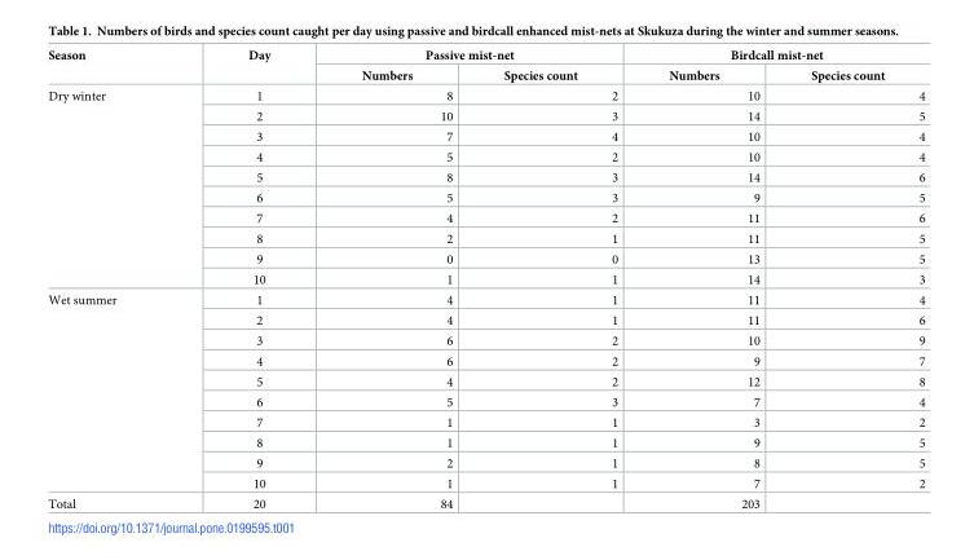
<table><thead><tr><td rowspan="2">Season</td><td rowspan="2">Day</td><td colspan="2">Passive mist-net</td><td colspan="2">Birdcall mist-net</td></tr><tr><td>Numbers</td><td>Species count</td><td>Numbers</td><td>Species count</td></tr></thead><tbody><tr><td rowspan="10">Dry winter</td><td>1</td><td>8</td><td>2</td><td>10</td><td>4</td></tr><tr><td>2</td><td>10</td><td>3</td><td>14</td><td>5</td></tr><tr><td>3</td><td>7</td><td>4</td><td>10</td><td>4</td></tr><tr><td>4</td><td>5</td><td>2</td><td>10</td><td>4</td></tr><tr><td>5</td><td>8</td><td>3</td><td>14</td><td>6</td></tr><tr><td>6</td><td>5</td><td>3</td><td>9</td><td>5</td></tr><tr><td>7</td><td>4</td><td>2</td><td>11</td><td>6</td></tr><tr><td>8</td><td>2</td><td>1</td><td>11</td><td>5</td></tr><tr><td>9</td><td>0</td><td>0</td><td>13</td><td>5</td></tr><tr><td>10</td><td>1</td><td>1</td><td>14</td><td>3</td></tr><tr><td rowspan="10">Wet summer</td><td>1</td><td>4</td><td>1</td><td>11</td><td>4</td></tr><tr><td>2</td><td>4</td><td>1</td><td>11</td><td>6</td></tr><tr><td>3</td><td>6</td><td>2</td><td>10</td><td>9</td></tr><tr><td>4</td><td>6</td><td>2</td><td>9</td><td>7</td></tr><tr><td>5</td><td>4</td><td>2</td><td>12</td><td>8</td></tr><tr><td>6</td><td>5</td><td>3</td><td>7</td><td>4</td></tr><tr><td>7</td><td>1</td><td>1</td><td>3</td><td>2</td></tr><tr><td>8</td><td>1</td><td>1</td><td>9</td><td>5</td></tr><tr><td>9</td><td>2</td><td>1</td><td>8</td><td>5</td></tr><tr><td>10</td><td>1</td><td>1</td><td>7</td><td>2</td></tr><tr><td>Total</td><td>20</td><td>84</td><td></td><td>203</td><td></td></tr></tbody></table>